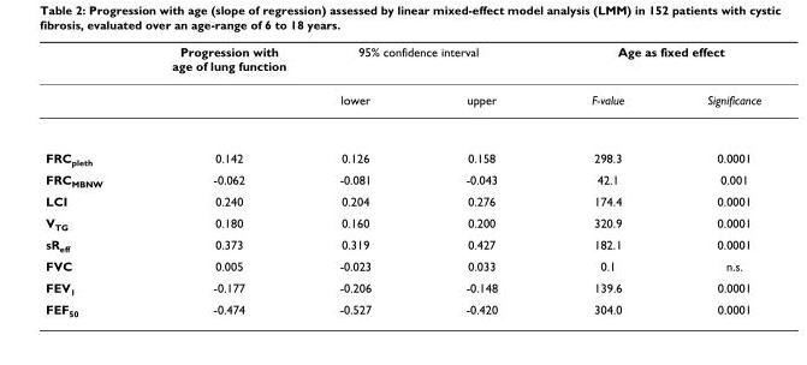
<table><thead><tr><td rowspan="2"></td><td rowspan="2">Progression with age of lung function</td><td colspan="2">95% confidence interval</td><td colspan="2">Age as fixed effect</td></tr><tr><td>lower</td><td>upper</td><td>F-value</td><td>Significance</td></tr></thead><tbody><tr><td>FRC<sub>pleth</sub></td><td>0.142</td><td>0.126</td><td>0.158</td><td>298.3</td><td>0.0001</td></tr><tr><td>FRC<sub>MBNW</sub></td><td>-0.062</td><td>-0.081</td><td>-0.043</td><td>42.1</td><td>0.001</td></tr><tr><td>LCI</td><td>0.240</td><td>0.204</td><td>0.276</td><td>174.4</td><td>0.0001</td></tr><tr><td>V<sub>TG</sub></td><td>0.180</td><td>0.160</td><td>0.200</td><td>320.9</td><td>0.0001</td></tr><tr><td>sR<sub>eff</sub></td><td>0.373</td><td>0.319</td><td>0.427</td><td>182.1</td><td>0.0001</td></tr><tr><td>FVC</td><td>0.005</td><td>-0.023</td><td>0.033</td><td>0.1</td><td>n.s.</td></tr><tr><td>FEV<sub>1</sub></td><td>-0.177</td><td>-0.206</td><td>-0.148</td><td>139.6</td><td>0.0001</td></tr><tr><td>FEF<sub>50</sub></td><td>-0.474</td><td>-0.527</td><td>-0.420</td><td>304.0</td><td>0.0001</td></tr></tbody></table>